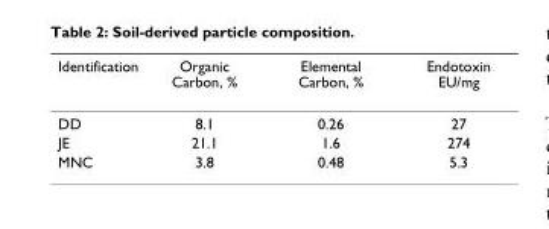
<table><thead><tr><td>Identification</td><td>Organic Carbon, %</td><td>Elemental Carbon, %</td><td>Endotoxin EU/mg</td></tr></thead><tbody><tr><td>DD</td><td>8.1</td><td>0.26</td><td>27</td></tr><tr><td>JE</td><td>21.1</td><td>1.6</td><td>274</td></tr><tr><td>MNC</td><td>3.8</td><td>0.48</td><td>5.3</td></tr></tbody></table>